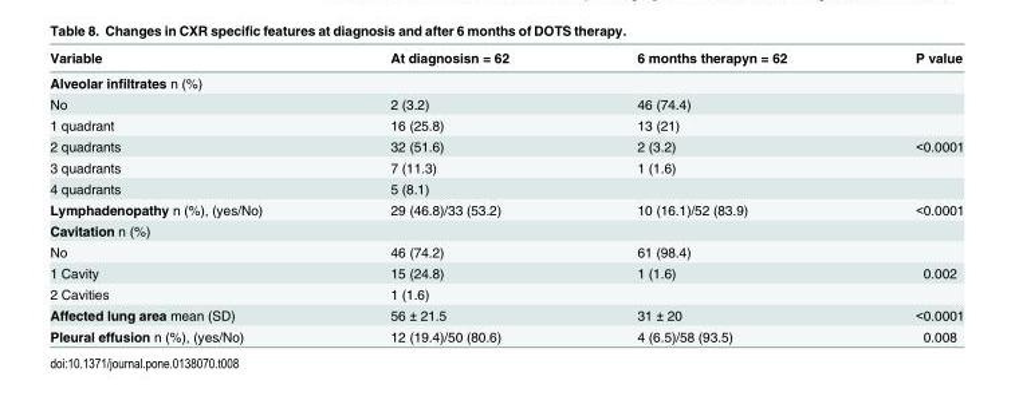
<table><thead><tr><td>Variable</td><td>At diagnosisn = 62</td><td>6 months therapyn = 62</td><td>P value</td></tr></thead><tbody><tr><td colspan="4">Alveolar infiltrates n (%)</td></tr><tr><td>No</td><td>2 (3.2)</td><td>46 (74.4)</td><td></td></tr><tr><td>1 quadrant</td><td>16 (25.8)</td><td>13 (21)</td><td></td></tr><tr><td>2 quadrants</td><td>32 (51.6)</td><td>2 (3.2)</td><td>&lt;0.0001</td></tr><tr><td>3 quadrants</td><td>7 (11.3)</td><td>1 (1.6)</td><td></td></tr><tr><td>4 quadrants</td><td>5 (8.1)</td><td></td><td></td></tr><tr><td>Lymphadenopathy n (%), (yes/No)</td><td>29 (46.8)/33 (53.2)</td><td>10 (16.1)/52 (83.9)</td><td>&lt;0.0001</td></tr><tr><td colspan="4">Cavitation n (%)</td></tr><tr><td>No</td><td>46 (74.2)</td><td>61 (98.4)</td><td></td></tr><tr><td>1 Cavity</td><td>15 (24.8)</td><td>1 (1.6)</td><td>0.002</td></tr><tr><td>2 Cavities</td><td>1 (1.6)</td><td></td><td></td></tr><tr><td>Affected lung area mean (SD)</td><td>56 ± 21.5</td><td>31 ± 20</td><td>&lt;0.0001</td></tr><tr><td>Pleural effusion n (%), (yes/No)</td><td>12 (19.4)/50 (80.6)</td><td>4 (6.5)/58 (93.5)</td><td>0.008</td></tr></tbody></table>